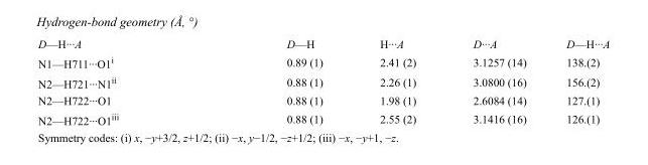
<table><tbody><tr><td>D—H···A</td><td>D—H</td><td>H···A</td><td>D···A</td><td>D—H···A</td></tr><tr><td>N1—H711···O1<sup>i</sup></td><td>0.89 (1)</td><td>2.41 (2)</td><td>3.1257 (14)</td><td>138.(2)</td></tr><tr><td>N2—H721···N1<sup>ii</sup></td><td>0.88 (1)</td><td>2.26 (1)</td><td>3.0800 (16)</td><td>156.(2)</td></tr><tr><td>N2—H722···O1</td><td>0.88 (1)</td><td>1.98 (1)</td><td>2.6084 (14)</td><td>127.(1)</td></tr><tr><td>N2—H722···O1<sup>iii</sup></td><td>0.88 (1)</td><td>2.55 (2)</td><td>3.1416 (16)</td><td>126.(1)</td></tr></tbody></table>